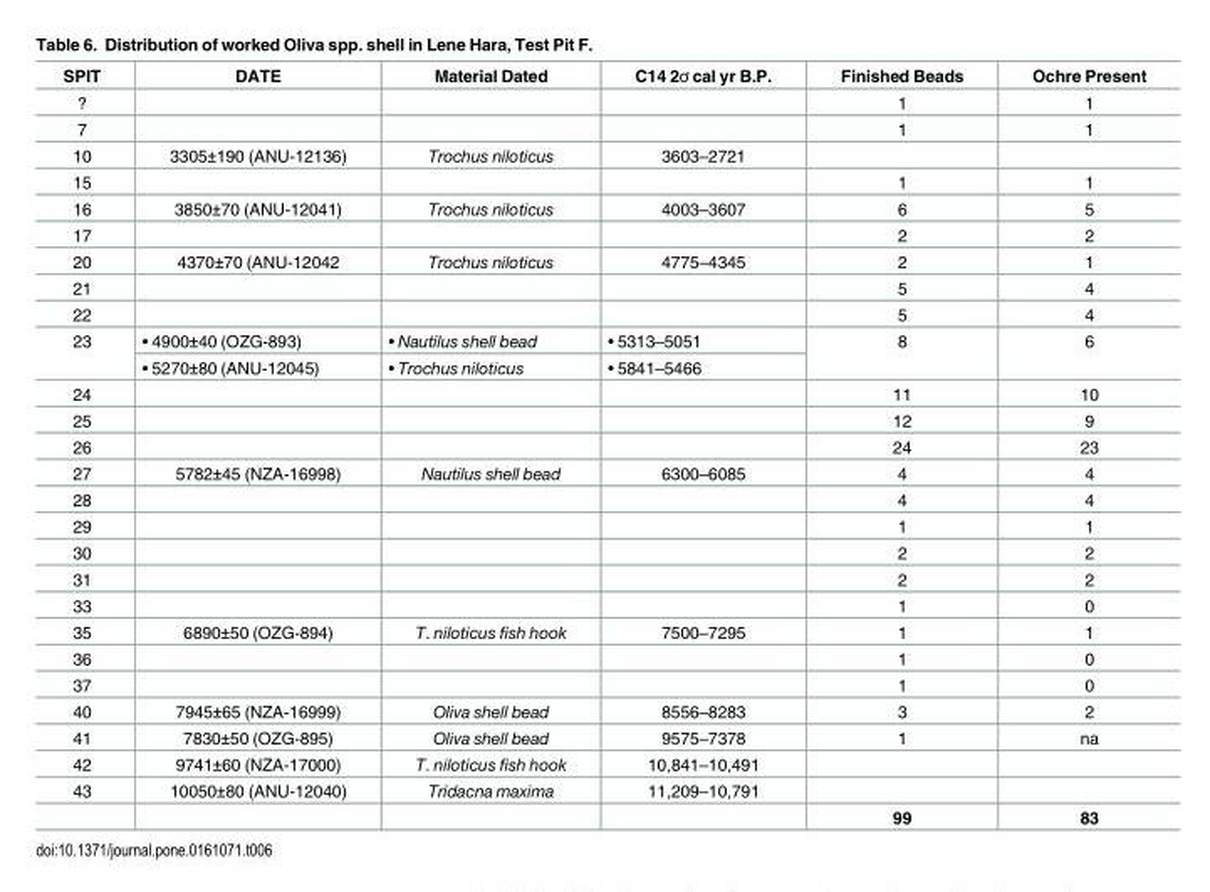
<table><thead><tr><td>SPIT</td><td>DATE</td><td>Material Dated</td><td>C14 2ơ cal yr B.P.</td><td>Finished Beads</td><td>Ochre Present</td></tr></thead><tbody><tr><td>?</td><td></td><td></td><td></td><td>1</td><td>1</td></tr><tr><td>7</td><td></td><td></td><td></td><td>1</td><td>1</td></tr><tr><td>10</td><td>3305±190 (ANU-12136)</td><td>Trochus niloticus</td><td>3603–2721</td><td></td><td></td></tr><tr><td>15</td><td></td><td></td><td></td><td>1</td><td>1</td></tr><tr><td>16</td><td>3850±70 (ANU-12041)</td><td>Trochus niloticus</td><td>4003–3607</td><td>6</td><td>5</td></tr><tr><td>17</td><td></td><td></td><td></td><td>2</td><td>2</td></tr><tr><td>20</td><td>4370±70 (ANU-12042</td><td>Trochus niloticus</td><td>4775–4345</td><td>2</td><td>1</td></tr><tr><td>21</td><td></td><td></td><td></td><td>5</td><td>4</td></tr><tr><td>22</td><td></td><td></td><td></td><td>5</td><td>4</td></tr><tr><td rowspan="2">23</td><td>• 4900±40 (OZG-893)</td><td>• Nautilus shell bead</td><td>• 5313–5051</td><td rowspan="2">8</td><td rowspan="2">6</td></tr><tr><td>• 5270±80 (ANU-12045)</td><td>• Trochus niloticus</td><td>• 5841–5466</td></tr><tr><td>24</td><td></td><td></td><td></td><td>11</td><td>10</td></tr><tr><td>25</td><td></td><td></td><td></td><td>12</td><td>9</td></tr><tr><td>26</td><td></td><td></td><td></td><td>24</td><td>23</td></tr><tr><td>27</td><td>5782±45 (NZA-16998)</td><td>Nautilus shell bead</td><td>6300–6085</td><td>4</td><td>4</td></tr><tr><td>28</td><td></td><td></td><td></td><td>4</td><td>4</td></tr><tr><td>29</td><td></td><td></td><td></td><td>1</td><td>1</td></tr><tr><td>30</td><td></td><td></td><td></td><td>2</td><td>2</td></tr><tr><td>31</td><td></td><td></td><td></td><td>2</td><td>2</td></tr><tr><td>33</td><td></td><td></td><td></td><td>1</td><td>0</td></tr><tr><td>35</td><td>6890±50 (OZG-894)</td><td>T. niloticus fish hook</td><td>7500–7295</td><td>1</td><td>1</td></tr><tr><td>36</td><td></td><td></td><td></td><td>1</td><td>0</td></tr><tr><td>37</td><td></td><td></td><td></td><td>1</td><td>0</td></tr><tr><td>40</td><td>7945±65 (NZA-16999)</td><td>Oliva shell bead</td><td>8556–8283</td><td>3</td><td>2</td></tr><tr><td>41</td><td>7830±50 (OZG-895)</td><td>Oliva shell bead</td><td>9575–7378</td><td>1</td><td>na</td></tr><tr><td>42</td><td>9741±60 (NZA-17000)</td><td>T. niloticus fish hook</td><td>10,841–10,491</td><td></td><td></td></tr><tr><td rowspan="2">43</td><td>10050±80 (ANU-12040)</td><td>Tridacna maxima</td><td>11,209–10,791</td><td></td><td></td></tr><tr><td></td><td></td><td></td><td>99</td><td>83</td></tr></tbody></table>